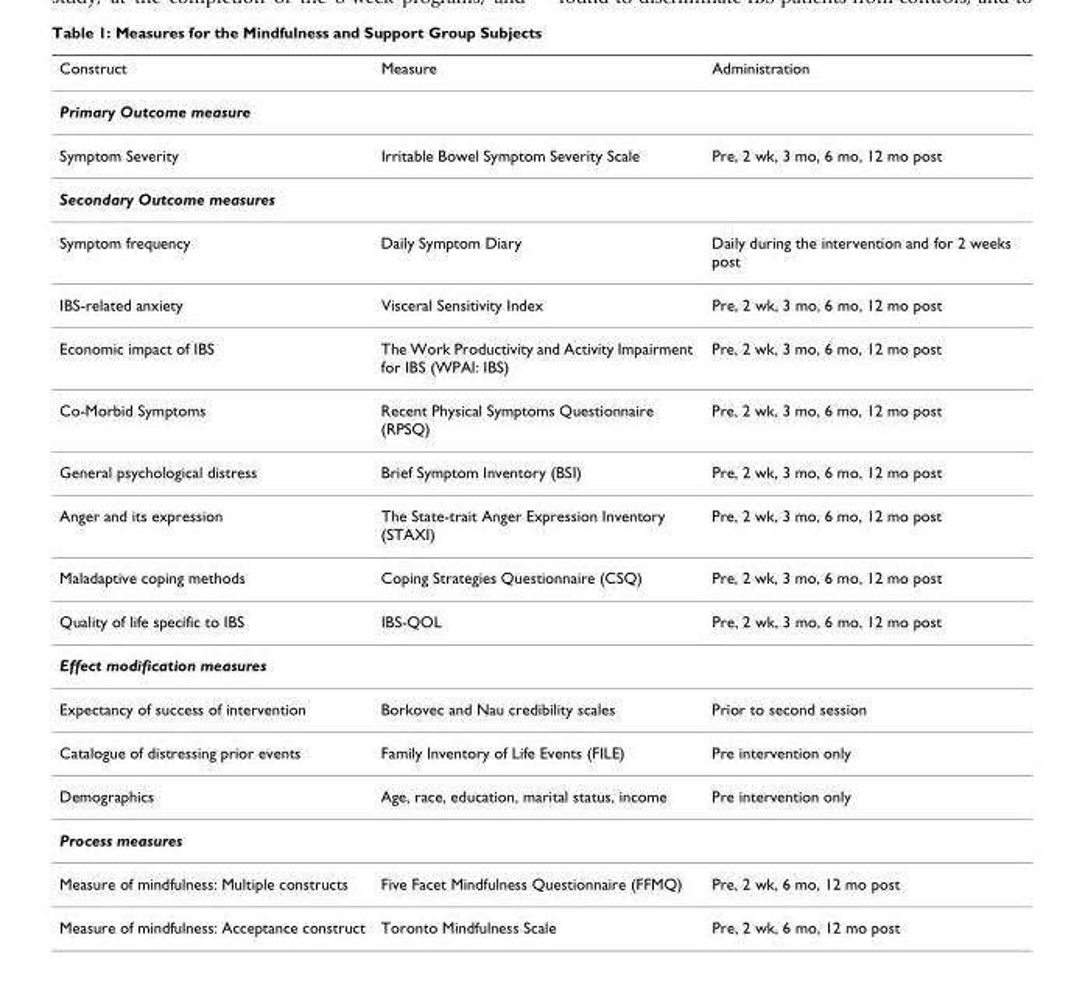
<table><thead><tr><td>Construct</td><td>Measure</td><td>Administration</td></tr></thead><tbody><tr><td colspan="3">Primary Outcome measure</td></tr><tr><td>Symptom Severity</td><td>Irritable Bowel Symptom Severity Scale</td><td>Pre, 2 wk, 3 mo, 6 mo, 12 mo post</td></tr><tr><td colspan="3">Secondary Outcome measures</td></tr><tr><td>Symptom frequency</td><td>Daily Symptom Diary</td><td>Daily during the intervention and for 2 weeks post</td></tr><tr><td>IBS-related anxiety</td><td>Visceral Sensitivity Index</td><td>Pre, 2 wk, 3 mo, 6 mo, 12 mo post</td></tr><tr><td>Economic impact of IBS</td><td>The Work Productivity and Activity Impairment for IBS (WPAI: IBS)</td><td>Pre, 2 wk, 3 mo, 6 mo, 12 mo post</td></tr><tr><td>Co-Morbid Symptoms</td><td>Recent Physical Symptoms Questionnaire (RPSQ)</td><td>Pre, 2 wk, 3 mo, 6 mo, 12 mo post</td></tr><tr><td>General psychological distress</td><td>Brief Symptom Inventory (BSI)</td><td>Pre, 2 wk, 3 mo, 6 mo, 12 mo post</td></tr><tr><td>Anger and its expression</td><td>The State-trait Anger Expression Inventory (STAXI)</td><td>Pre, 2 wk, 3 mo, 6 mo, 12 mo post</td></tr><tr><td>Maladaptive coping methods</td><td>Coping Strategies Questionnaire (CSQ)</td><td>Pre, 2 wk, 3 mo, 6 mo, 12 mo post</td></tr><tr><td>Quality of life specific to IBS</td><td>IBS-QOL</td><td>Pre, 2 wk, 3 mo, 6 mo, 12 mo post</td></tr><tr><td colspan="3">Effect modification measures</td></tr><tr><td>Expectancy of success of intervention</td><td>Borkovec and Nau credibility scales</td><td>Prior to second session</td></tr><tr><td>Catalogue of distressing prior events</td><td>Family Inventory of Life Events (FILE)</td><td>Pre intervention only</td></tr><tr><td>Demographics</td><td>Age, race, education, marital status, income</td><td>Pre intervention only</td></tr><tr><td colspan="3">Process measures</td></tr><tr><td>Measure of mindfulness: Multiple constructs</td><td>Five Facet Mindfulness Questionnaire (FFMQ)</td><td>Pre, 2 wk, 6 mo, 12 mo post</td></tr><tr><td>Measure of mindfulness: Acceptance construct</td><td>Toronto Mindfulness Scale</td><td>Pre, 2 wk, 6 mo, 12 mo post</td></tr></tbody></table>